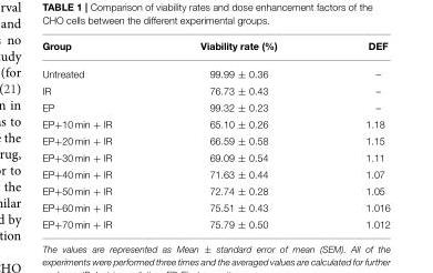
<table><thead><tr><td>Group</td><td>Viability rate (%)</td><td>DEF</td></tr></thead><tbody><tr><td>Untreated</td><td>99.99 ± 0.36</td><td>–</td></tr><tr><td>IR</td><td>76.73 ± 0.43</td><td>–</td></tr><tr><td>EP</td><td>99.32 ± 0.23</td><td>–</td></tr><tr><td>EP+10 min + IR</td><td>65.10 ± 0.26</td><td>1.18</td></tr><tr><td>EP+20 min + IR</td><td>66.59 ± 0.58</td><td>1.15</td></tr><tr><td>EP+30 min + IR</td><td>69.09 ± 0.54</td><td>1.11</td></tr><tr><td>EP+40 min + IR</td><td>71.63 ± 0.44</td><td>1.07</td></tr><tr><td>EP+50 min + IR</td><td>72.74 ± 0.28</td><td>1.05</td></tr><tr><td>EP+60 min + IR</td><td>75.51 ± 0.43</td><td>1.016</td></tr><tr><td>EP+70 min + IR</td><td>75.79 ± 0.50</td><td>1.012</td></tr></tbody></table>